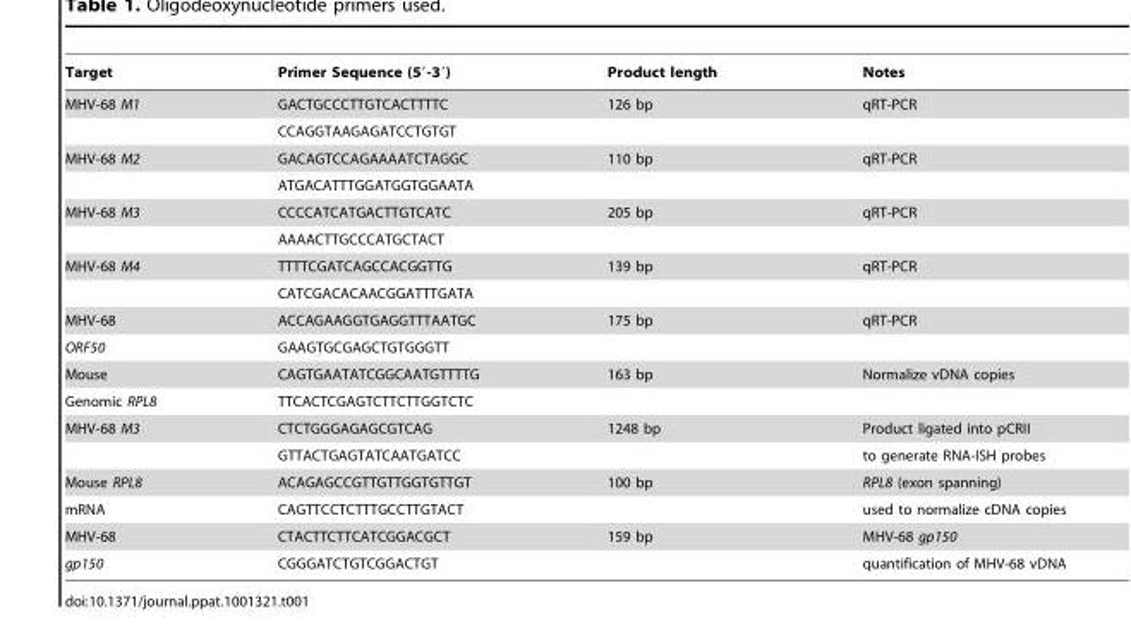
<table><thead><tr><td>Target</td><td>Primer Sequence (5′-3′)</td><td>Product length</td><td>Notes</td></tr></thead><tbody><tr><td rowspan="2">MHV-68 M1</td><td>GACTGCCCTTGTCACTTTTC</td><td>126 bp</td><td>qRT-PCR</td></tr><tr><td>CCAGGTAAGAGATCCTGTGT</td><td></td><td></td></tr><tr><td rowspan="2">MHV-68 M2</td><td>GACAGTCCAGAAAATCTAGGC</td><td>110 bp</td><td>qRT-PCR</td></tr><tr><td>ATGACATTTGGATGGTGGAATA</td><td></td><td></td></tr><tr><td rowspan="2">MHV-68 M3</td><td>CCCCATCATGACTTGTCATC</td><td>205 bp</td><td>qRT-PCR</td></tr><tr><td>AAAACTTGCCCATGCTACT</td><td></td><td></td></tr><tr><td rowspan="2">MHV-68 M4</td><td>TTTTCGATCAGCCACGGTTG</td><td>139 bp</td><td>qRT-PCR</td></tr><tr><td>CATCGACACAACGGATTTGATA</td><td></td><td></td></tr><tr><td>MHV-68</td><td>ACCAGAAGGTGAGGTTTAATGC</td><td>175 bp</td><td>qRT-PCR</td></tr><tr><td>ORF50</td><td>GAAGTGCGAGCTGTGGGTT</td><td></td><td></td></tr><tr><td>Mouse</td><td>CAGTGAATATCGGCAATGTTTTG</td><td>163 bp</td><td>Normalize vDNA copies</td></tr><tr><td>Genomic RPL8</td><td>TTCACTCGAGTCTTCTTGGTCTC</td><td></td><td></td></tr><tr><td rowspan="2">MHV-68 M3</td><td>CTCTGGGAGAGCGTCAG</td><td>1248 bp</td><td>Product ligated into pCRII</td></tr><tr><td>GTTACTGAGTATCAATGATCC</td><td></td><td>to generate RNA-ISH probes</td></tr><tr><td>Mouse RPL8</td><td>ACAGAGCCGTTGTTGGTGTTGT</td><td>100 bp</td><td>RPL8 (exon spanning)</td></tr><tr><td>mRNA</td><td>CAGTTCCTCTTTGCCTTGTACT</td><td></td><td>used to normalize cDNA copies</td></tr><tr><td>MHV-68</td><td>CTACTTCTTCATCGGACGCT</td><td>159 bp</td><td>MHV-68 gp150</td></tr><tr><td>gp150</td><td>CGGGATCTGTCGGACTGT</td><td></td><td>quantification of MHV-68 vDNA</td></tr></tbody></table>